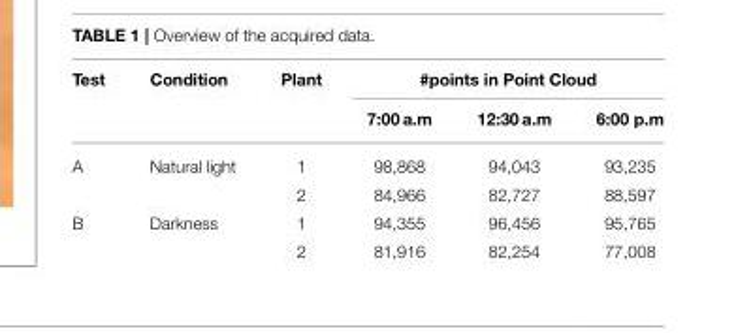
<table><thead><tr><td rowspan="2">Test</td><td rowspan="2">Condition</td><td rowspan="2">Plant</td><td colspan="3">#points in Point Cloud</td></tr><tr><td>7:00 a.m</td><td>12:30 a.m</td><td>6:00 p.m</td></tr></thead><tbody><tr><td rowspan="2">A</td><td>Natural light</td><td>1</td><td>98,868</td><td>94,043</td><td>93,235</td></tr><tr><td></td><td>2</td><td>84,966</td><td>82,727</td><td>88,597</td></tr><tr><td rowspan="2">B</td><td>Darkness</td><td>1</td><td>94,355</td><td>96,456</td><td>95,765</td></tr><tr><td></td><td>2</td><td>81,916</td><td>82,254</td><td>77,008</td></tr></tbody></table>